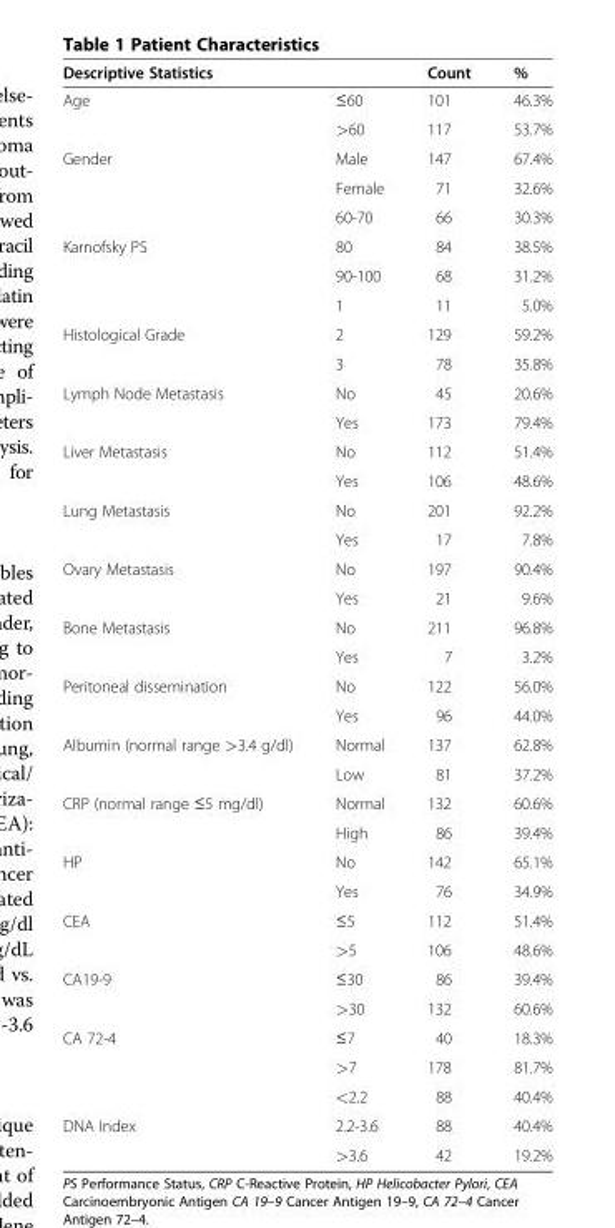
<table><thead><tr><td colspan="2">Descriptive Statistics</td><td rowspan="2">Count 101</td><td rowspan="2">% 46.3%</td></tr><tr><td>Age</td><td>≤60</td></tr></thead><tbody><tr><td></td><td>&gt;60</td><td>117</td><td>53.7%</td></tr><tr><td rowspan="3">Gender</td><td>Male</td><td>147</td><td>67.4%</td></tr><tr><td>Female</td><td>71</td><td>32.6%</td></tr><tr><td>60-70</td><td>66</td><td>30.3%</td></tr><tr><td rowspan="3">Karnofsky PS</td><td>80</td><td>84</td><td>38.5%</td></tr><tr><td>90-100</td><td>68</td><td>31.2%</td></tr><tr><td>1</td><td>11</td><td>5.0%</td></tr><tr><td rowspan="2">Histological Grade</td><td>2</td><td>129</td><td>59.2%</td></tr><tr><td>3</td><td>78</td><td>35.8%</td></tr><tr><td rowspan="2">Lymph Node Metastasis</td><td>No</td><td>45</td><td>20.6%</td></tr><tr><td>Yes</td><td>173</td><td>79.4%</td></tr><tr><td rowspan="2">Liver Metastasis</td><td>No</td><td>112</td><td>51.4%</td></tr><tr><td>Yes</td><td>106</td><td>48.6%</td></tr><tr><td rowspan="2">Lung Metastasis</td><td>No</td><td>201</td><td>92.2%</td></tr><tr><td>Yes</td><td>17</td><td>7.8%</td></tr><tr><td rowspan="2">Ovary Metastasis</td><td>No</td><td>197</td><td>90.4%</td></tr><tr><td>Yes</td><td>21</td><td>9.6%</td></tr><tr><td rowspan="2">Bone Metastasis</td><td>No</td><td>211</td><td>96.8%</td></tr><tr><td>Yes</td><td>7</td><td>3.2%</td></tr><tr><td rowspan="2">Peritoneal dissemination</td><td>No</td><td>122</td><td>56.0%</td></tr><tr><td>Yes</td><td>96</td><td>44.0%</td></tr><tr><td rowspan="2">Albumin (normal range &gt;3.4 g/dl)</td><td>Normal</td><td>137</td><td>62.8%</td></tr><tr><td>Low</td><td>81</td><td>37.2%</td></tr><tr><td rowspan="2">CRP (normal range ≤5 mg/dl)</td><td>Normal</td><td>132</td><td>60.6%</td></tr><tr><td>High</td><td>86</td><td>39.4%</td></tr><tr><td rowspan="2">HP</td><td>No</td><td>142</td><td>65.1%</td></tr><tr><td>Yes</td><td>76</td><td>34.9%</td></tr><tr><td rowspan="2">CEA</td><td>≤5</td><td>112</td><td>51.4%</td></tr><tr><td>&gt;5</td><td>106</td><td>48.6%</td></tr><tr><td rowspan="2">CA19-9</td><td>≤30</td><td>86</td><td>39.4%</td></tr><tr><td>&gt;30</td><td>132</td><td>60.6%</td></tr><tr><td rowspan="3">CA 72-4</td><td>≤7</td><td>40</td><td>18.3%</td></tr><tr><td>&gt;7</td><td>178</td><td>81.7%</td></tr><tr><td>&lt;2.2</td><td>88</td><td>40.4%</td></tr><tr><td rowspan="2">DNA Index</td><td>2.2-3.6</td><td>88</td><td>40.4%</td></tr><tr><td>&gt;3.6</td><td>42</td><td>19.2%</td></tr></tbody></table>